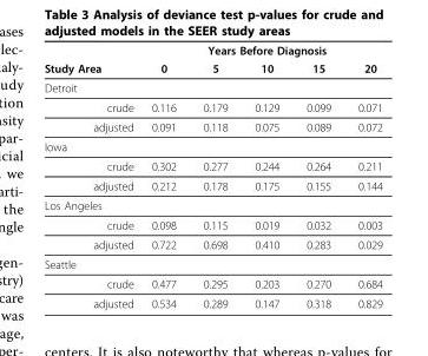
<table><thead><tr><td rowspan="2">Study Area</td><td colspan="5">Years Before Diagnosis</td></tr><tr><td>0</td><td>5</td><td>10</td><td>15</td><td>20</td></tr></thead><tbody><tr><td colspan="6">Detroit</td></tr><tr><td>crude</td><td>0.116</td><td>0.179</td><td>0.129</td><td>0.099</td><td>0.071</td></tr><tr><td>adjusted</td><td>0.091</td><td>0.118</td><td>0.075</td><td>0.089</td><td>0.072</td></tr><tr><td colspan="6">Iowa</td></tr><tr><td>crude</td><td>0.302</td><td>0.277</td><td>0.244</td><td>0.264</td><td>0.211</td></tr><tr><td>adjusted</td><td>0.212</td><td>0.178</td><td>0.175</td><td>0.155</td><td>0.144</td></tr><tr><td colspan="6">Los Angeles</td></tr><tr><td>crude</td><td>0.098</td><td>0.115</td><td>0.019</td><td>0.032</td><td>0.003</td></tr><tr><td>adjusted</td><td>0.722</td><td>0.698</td><td>0.410</td><td>0.283</td><td>0.029</td></tr><tr><td colspan="6">Seattle</td></tr><tr><td>crude</td><td>0.477</td><td>0.295</td><td>0.203</td><td>0.270</td><td>0.684</td></tr><tr><td>adjusted</td><td>0.534</td><td>0.289</td><td>0.147</td><td>0.318</td><td>0.829</td></tr></tbody></table>